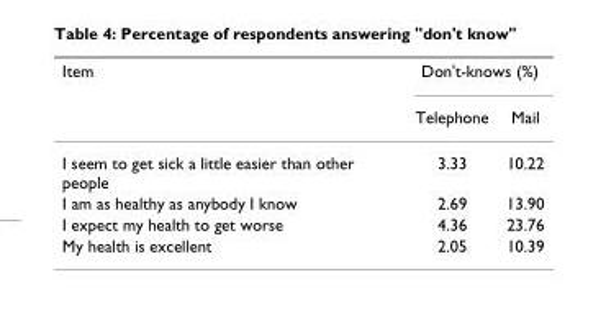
<table><thead><tr><td rowspan="2">Item</td><td colspan="2">Don&#x27;t-knows (%)</td></tr><tr><td>Telephone</td><td>Mail</td></tr></thead><tbody><tr><td>I seem to get sick a little easier than other people</td><td>3.33</td><td>10.22</td></tr><tr><td>I am as healthy as anybody I know</td><td>2.69</td><td>13.90</td></tr><tr><td>I expect my health to get worse</td><td>4.36</td><td>23.76</td></tr><tr><td>My health is excellent</td><td>2.05</td><td>10.39</td></tr></tbody></table>